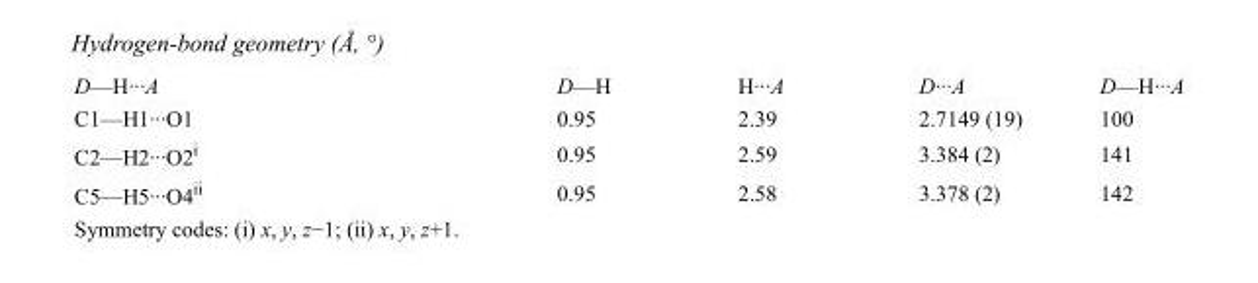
<table><tbody><tr><td>D—H···A</td><td>D—H</td><td>H···A</td><td>D···A</td><td>D—H···A</td></tr><tr><td>C1—H1···O1</td><td>0.95</td><td>2.39</td><td>2.7149 (19)</td><td>100</td></tr><tr><td>C2—H2···O2<sup>i</sup></td><td>0.95</td><td>2.59</td><td>3.384 (2)</td><td>141</td></tr><tr><td>C5—H5···O4<sup>ii</sup></td><td>0.95</td><td>2.58</td><td>3.378 (2)</td><td>142</td></tr></tbody></table>